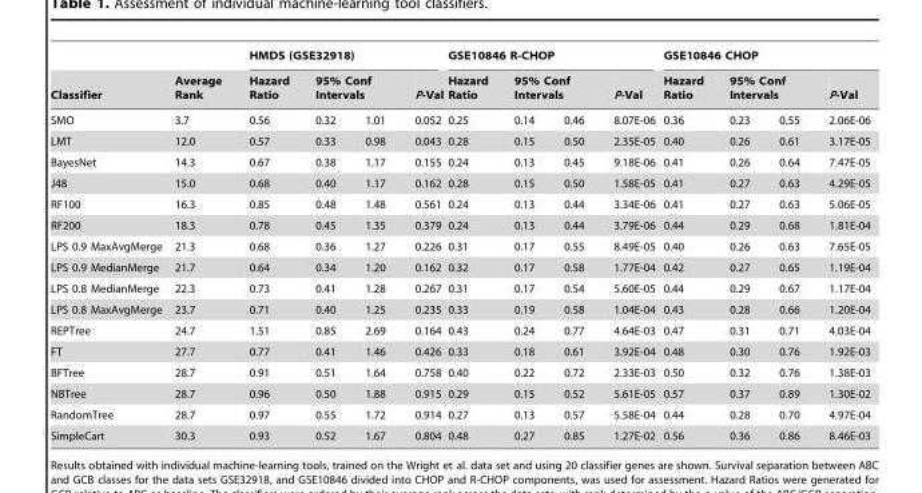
<table><thead><tr><td rowspan="3">Classifier SMO</td><td rowspan="3">Average Rank 3.7</td><td colspan="4">HMDS (GSE32918)</td><td colspan="4">GSE10846 R-CHOP</td><td colspan="4">GSE10846 CHOP</td></tr><tr><td rowspan="2">Hazard Ratio 0.56</td><td colspan="2">95% Conf Intervals</td><td rowspan="2">P-Val 0.052</td><td rowspan="2">Hazard Ratio 0.25</td><td colspan="2">95% Conf Intervals</td><td rowspan="2">P-Val 8.07E-06</td><td rowspan="2">Hazard Ratio 0.36</td><td colspan="2">95% Conf Intervals</td><td rowspan="2">P-Val 2.06E-06</td></tr><tr><td>0.32</td><td>1.01</td><td>0.14</td><td>0.46</td><td>0.23</td><td>0.55</td></tr></thead><tbody><tr><td>LMT</td><td>12.0</td><td>0.57</td><td>0.33</td><td>0.98</td><td>0.043</td><td>0.28</td><td>0.15</td><td>0.50</td><td>2.35E-05</td><td>0.40</td><td>0.26</td><td>0.61</td><td>3.17E-05</td></tr><tr><td>BayesNet</td><td>14.3</td><td>0.67</td><td>0.38</td><td>1.17</td><td>0.155</td><td>0.24</td><td>0.13</td><td>0.45</td><td>9.18E-06</td><td>0.41</td><td>0.26</td><td>0.64</td><td>7.47E-05</td></tr><tr><td>J48</td><td>15.0</td><td>0.68</td><td>0.40</td><td>1.17</td><td>0.162</td><td>0.28</td><td>0.15</td><td>0.50</td><td>1.58E-05</td><td>0.41</td><td>0.27</td><td>0.63</td><td>4.29E-05</td></tr><tr><td>RF100</td><td>16.3</td><td>0.85</td><td>0.48</td><td>1.48</td><td>0.561</td><td>0.24</td><td>0.13</td><td>0.44</td><td>3.34E-06</td><td>0.41</td><td>0.27</td><td>0.63</td><td>5.06E-05</td></tr><tr><td>RF200</td><td>18.3</td><td>0.78</td><td>0.45</td><td>1.35</td><td>0.379</td><td>0.24</td><td>0.13</td><td>0.44</td><td>3.79E-06</td><td>0.44</td><td>0.29</td><td>0.68</td><td>1.81E-04</td></tr><tr><td>LPS 0.9 MaxAvgMerge</td><td>21.3</td><td>0.68</td><td>0.36</td><td>1.27</td><td>0.226</td><td>0.31</td><td>0.17</td><td>0.55</td><td>8.49E-05</td><td>0.40</td><td>0.26</td><td>0.63</td><td>7.65E-05</td></tr><tr><td>LPS 0.9 MedianMerge</td><td>21.7</td><td>0.64</td><td>0.34</td><td>1.20</td><td>0.162</td><td>0.32</td><td>0.17</td><td>0.58</td><td>1.77E-04</td><td>0.42</td><td>0.27</td><td>0.65</td><td>1.19E-04</td></tr><tr><td>LPS 0.8 MedianMerge</td><td>22.3</td><td>0.73</td><td>0.41</td><td>1.28</td><td>0.267</td><td>0.31</td><td>0.17</td><td>0.54</td><td>5.60E-05</td><td>0.44</td><td>0.29</td><td>0.67</td><td>1.17E-04</td></tr><tr><td>LPS 0.8 MaxAvgMerge</td><td>23.7</td><td>0.71</td><td>0.40</td><td>1.25</td><td>0.235</td><td>0.33</td><td>0.19</td><td>0.58</td><td>1.04E-04</td><td>0.43</td><td>0.28</td><td>0.66</td><td>1.20E-04</td></tr><tr><td>REPTree</td><td>24.7</td><td>1.51</td><td>0.85</td><td>2.69</td><td>0.164</td><td>0.43</td><td>0.24</td><td>0.77</td><td>4.64E-03</td><td>0.47</td><td>0.31</td><td>0.71</td><td>4.03E-04</td></tr><tr><td>FT</td><td>27.7</td><td>0.77</td><td>0.41</td><td>1.46</td><td>0.426</td><td>0.33</td><td>0.18</td><td>0.61</td><td>3.92E-04</td><td>0.48</td><td>0.30</td><td>0.76</td><td>1.92E-03</td></tr><tr><td>BFTree</td><td>28.7</td><td>0.91</td><td>0.51</td><td>1.64</td><td>0.758</td><td>0.40</td><td>0.22</td><td>0.72</td><td>2.33E-03</td><td>0.50</td><td>0.32</td><td>0.76</td><td>1.38E-03</td></tr><tr><td>NBTree</td><td>28.7</td><td>0.96</td><td>0.50</td><td>1.88</td><td>0.915</td><td>0.29</td><td>0.15</td><td>0.52</td><td>5.61E-05</td><td>0.57</td><td>0.37</td><td>0.89</td><td>1.30E-02</td></tr><tr><td>RandomTree</td><td>28.7</td><td>0.97</td><td>0.55</td><td>1.72</td><td>0.914</td><td>0.27</td><td>0.13</td><td>0.57</td><td>5.58E-04</td><td>0.44</td><td>0.28</td><td>0.70</td><td>4.97E-04</td></tr><tr><td>SimpleCart</td><td>30.3</td><td>0.93</td><td>0.52</td><td>1.67</td><td>0.804</td><td>0.48</td><td>0.27</td><td>0.85</td><td>1.27E-02</td><td>0.56</td><td>0.36</td><td>0.86</td><td>8.46E-03</td></tr></tbody></table>